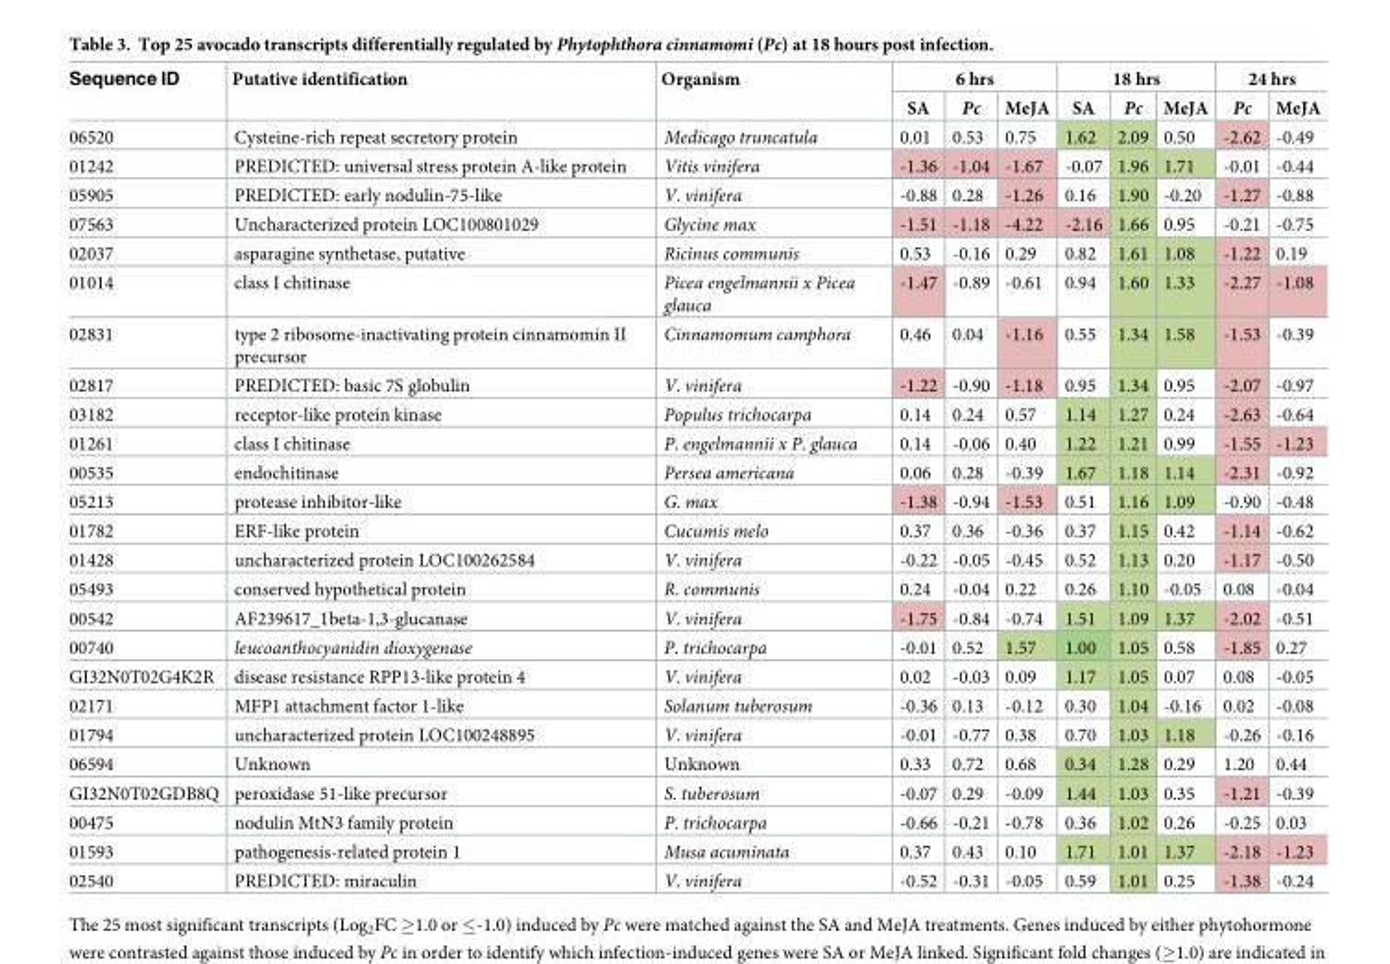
<table><thead><tr><td rowspan="2">Sequence ID</td><td rowspan="2">Putative identification</td><td rowspan="2">Organism</td><td colspan="3">6 hrs</td><td colspan="3">18 hrs</td><td colspan="2">24 hrs</td></tr><tr><td>SA</td><td>Pc</td><td>MeJA</td><td>SA</td><td>Pc</td><td>MeJA</td><td>Pc</td><td>MeJA</td></tr></thead><tbody><tr><td>06520</td><td>Cysteine-rich repeat secretory protein</td><td>Medicago truncatula</td><td>0.01</td><td>0.53</td><td>0.75</td><td>1.62</td><td>2.09</td><td>0.50</td><td>-2.62</td><td>-0.49</td></tr><tr><td>01242</td><td>PREDICTED: universal stress protein A-like protein</td><td>Vitis vinifera</td><td>-1.36</td><td>-1.04</td><td>-1.67</td><td>-0.07</td><td>1.96</td><td>1.71</td><td>-0.01</td><td>-0.44</td></tr><tr><td>05905</td><td>PREDICTED: early nodulin-75-like</td><td>V. vinifera</td><td>-0.88</td><td>0.28</td><td>-1.26</td><td>0.16</td><td>1.90</td><td>-0.20</td><td>-1.27</td><td>-0.88</td></tr><tr><td>07563</td><td>Uncharacterized protein LOC100801029</td><td>Glycine max</td><td>-1.51</td><td>-1.18</td><td>-4.22</td><td>-2.16</td><td>1.66</td><td>0.95</td><td>-0.21</td><td>-0.75</td></tr><tr><td>02037</td><td>asparagine synthetase, putative</td><td>Ricinus communis</td><td>0.53</td><td>-0.16</td><td>0.29</td><td>0.82</td><td>1.61</td><td>1.08</td><td>-1.22</td><td>0.19</td></tr><tr><td>01014</td><td>class I chitinase</td><td>Picea engelmannii x Picea glauca</td><td>-1.47</td><td>-0.89</td><td>-0.61</td><td>0.94</td><td>1.60</td><td>1.33</td><td>-2.27</td><td>-1.08</td></tr><tr><td>02831</td><td>type 2 ribosome-inactivating protein cinnamomin II precursor</td><td>Cinnamomum camphora</td><td>0.46</td><td>0.04</td><td>-1.16</td><td>0.55</td><td>1.34</td><td>1.58</td><td>-1.53</td><td>-0.39</td></tr><tr><td>02817</td><td>PREDICTED: basic 7S globulin</td><td>V. vinifera</td><td>-1.22</td><td>-0.90</td><td>-1.18</td><td>0.95</td><td>1.34</td><td>0.95</td><td>-2.07</td><td>-0.97</td></tr><tr><td>03182</td><td>receptor-like protein kinase</td><td>Populus trichocarpa</td><td>0.14</td><td>0.24</td><td>0.57</td><td>1.14</td><td>1.27</td><td>0.24</td><td>-2.63</td><td>-0.64</td></tr><tr><td>01261</td><td>class I chitinase</td><td>P. engelmannii x P. glauca</td><td>0.14</td><td>-0.06</td><td>0.40</td><td>1.22</td><td>1.21</td><td>0.99</td><td>-1.55</td><td>-1.23</td></tr><tr><td>00535</td><td>endochitinase</td><td>Persea americana</td><td>0.06</td><td>0.28</td><td>-0.39</td><td>1.67</td><td>1.18</td><td>1.14</td><td>-2.31</td><td>-0.92</td></tr><tr><td>05213</td><td>protease inhibitor-like</td><td>G. max</td><td>-1.38</td><td>-0.94</td><td>-1.53</td><td>0.51</td><td>1.16</td><td>1.09</td><td>-0.90</td><td>-0.48</td></tr><tr><td>01782</td><td>ERF-like protein</td><td>Cucumis melo</td><td>0.37</td><td>0.36</td><td>-0.36</td><td>0.37</td><td>1.15</td><td>0.42</td><td>-1.14</td><td>-0.62</td></tr><tr><td>01428</td><td>uncharacterized protein LOC100262584</td><td>V. vinifera</td><td>-0.22</td><td>-0.05</td><td>-0.45</td><td>0.52</td><td>1.13</td><td>0.20</td><td>-1.17</td><td>-0.50</td></tr><tr><td>05493</td><td>conserved hypothetical protein</td><td>R. communis</td><td>0.24</td><td>-0.04</td><td>0.22</td><td>0.26</td><td>1.10</td><td>-0.05</td><td>0.08</td><td>-0.04</td></tr><tr><td>00542</td><td>AF239617_1beta-1,3-glucanase</td><td>V. vinifera</td><td>-1.75</td><td>-0.84</td><td>-0.74</td><td>1.51</td><td>1.09</td><td>1.37</td><td>-2.02</td><td>-0.51</td></tr><tr><td>00740</td><td>leucoanthocyanidin dioxygenase</td><td>P. trichocarpa</td><td>-0.01</td><td>0.52</td><td>1.57</td><td>1.00</td><td>1.05</td><td>0.58</td><td>-1.85</td><td>0.27</td></tr><tr><td>GI32N0T02G4K2R</td><td>disease resistance RPP13-like protein 4</td><td>V. vinifera</td><td>0.02</td><td>-0.03</td><td>0.09</td><td>1.17</td><td>1.05</td><td>0.07</td><td>0.08</td><td>-0.05</td></tr><tr><td>02171</td><td>MFP1 attachment factor 1-like</td><td>Solanum tuberosum</td><td>-0.36</td><td>0.13</td><td>-0.12</td><td>0.30</td><td>1.04</td><td>-0.16</td><td>0.02</td><td>-0.08</td></tr><tr><td>01794</td><td>uncharacterized protein LOC100248895</td><td>V. vinifera</td><td>-0.01</td><td>-0.77</td><td>0.38</td><td>0.70</td><td>1.03</td><td>1.18</td><td>-0.26</td><td>-0.16</td></tr><tr><td>06594</td><td>Unknown</td><td>Unknown</td><td>0.33</td><td>0.72</td><td>0.68</td><td>0.34</td><td>1.28</td><td>0.29</td><td>1.20</td><td>0.44</td></tr><tr><td>GI32N0T02GDB8Q</td><td>peroxidase 51-like precursor</td><td>S. tuberosum</td><td>-0.07</td><td>0.29</td><td>-0.09</td><td>1.44</td><td>1.03</td><td>0.35</td><td>-1.21</td><td>-0.39</td></tr><tr><td>00475</td><td>nodulin MtN3 family protein</td><td>P. trichocarpa</td><td>-0.66</td><td>-0.21</td><td>-0.78</td><td>0.36</td><td>1.02</td><td>0.26</td><td>-0.25</td><td>0.03</td></tr><tr><td>01593</td><td>pathogenesis-related protein 1</td><td>Musa acuminata</td><td>0.37</td><td>0.43</td><td>0.10</td><td>1.71</td><td>1.01</td><td>1.37</td><td>-2.18</td><td>-1.23</td></tr><tr><td>02540</td><td>PREDICTED: miraculin</td><td>V. vinifera</td><td>-0.52</td><td>-0.31</td><td>-0.05</td><td>0.59</td><td>1.01</td><td>0.25</td><td>-1.38</td><td>-0.24</td></tr></tbody></table>